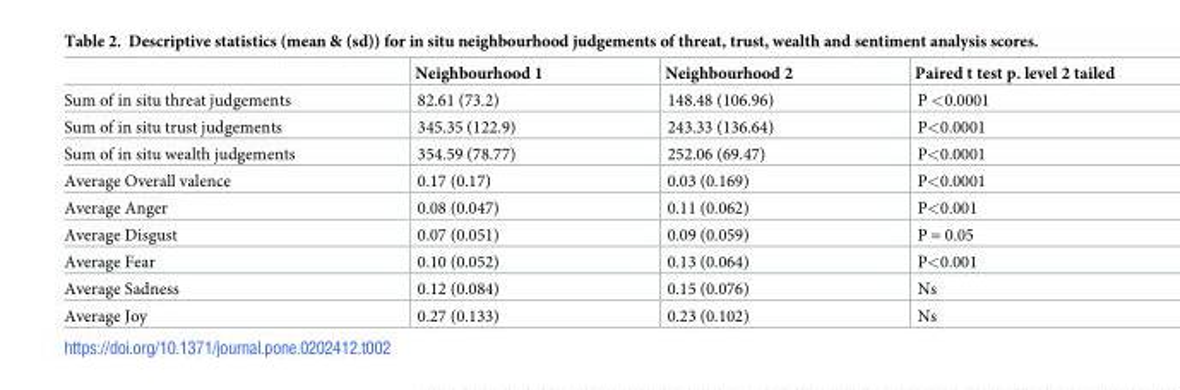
<table><thead><tr><td></td><td>Neighbourhood 1</td><td>Neighbourhood 2</td><td>Paired t test p. level 2 tailed</td></tr></thead><tbody><tr><td>Sum of in situ threat judgements</td><td>82.61 (73.2)</td><td>148.48 (106.96)</td><td>P &lt;0.0001</td></tr><tr><td>Sum of in situ trust judgements</td><td>345.35 (122.9)</td><td>243.33 (136.64)</td><td>P&lt;0.0001</td></tr><tr><td>Sum of in situ wealth judgements</td><td>354.59 (78.77)</td><td>252.06 (69.47)</td><td>P&lt;0.0001</td></tr><tr><td>Average Overall valence</td><td>0.17 (0.17)</td><td>0.03 (0.169)</td><td>P&lt;0.0001</td></tr><tr><td>Average Anger</td><td>0.08 (0.047)</td><td>0.11 (0.062)</td><td>P&lt;0.001</td></tr><tr><td>Average Disgust</td><td>0.07 (0.051)</td><td>0.09 (0.059)</td><td>P = 0.05</td></tr><tr><td>Average Fear</td><td>0.10 (0.052)</td><td>0.13 (0.064)</td><td>P&lt;0.001</td></tr><tr><td>Average Sadness</td><td>0.12 (0.084)</td><td>0.15 (0.076)</td><td>Ns</td></tr><tr><td>Average Joy</td><td>0.27 (0.133)</td><td>0.23 (0.102)</td><td>Ns</td></tr></tbody></table>